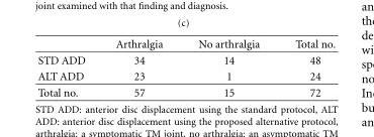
<table><thead><tr><td></td><td>Arthralgia</td><td>No arthralgia</td><td>Total no.</td></tr></thead><tbody><tr><td>STD ADD</td><td>34</td><td>14</td><td>48</td></tr><tr><td>ALT ADD</td><td>23</td><td>1</td><td>24</td></tr><tr><td>Total no.</td><td>57</td><td>15</td><td>72</td></tr></tbody></table>